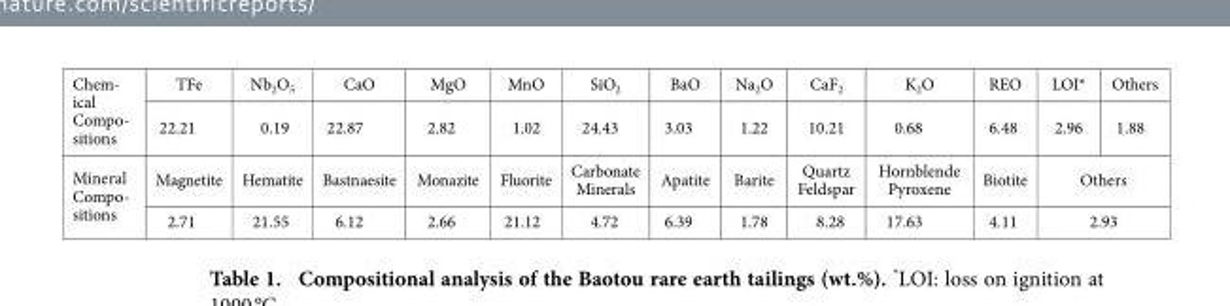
<table><tbody><tr><td rowspan="2">Chem- ical Compo- sitions</td><td>TFe</td><td>Nb<sub>2</sub>O<sub>5</sub></td><td>CaO</td><td>MgO</td><td>MnO</td><td>SiO<sub>2</sub></td><td>BaO</td><td>Na<sub>2</sub>O</td><td>CaF<sub>2</sub></td><td>K<sub>2</sub>O</td><td>REO</td><td>LOI*</td><td>Others</td></tr><tr><td>22.21</td><td>0.19</td><td>22.87</td><td>2.82</td><td>1.02</td><td>24.43</td><td>3.03</td><td>1.22</td><td>10.21</td><td>0.68</td><td>6.48</td><td>2.96</td><td>1.88</td></tr><tr><td rowspan="2">Mineral Compo- sitions</td><td>Magnetite</td><td>Hematite</td><td>Bastnaesite</td><td>Monazite</td><td>Fluorite</td><td>Carbonate Minerals</td><td>Apatite</td><td>Barite</td><td>Quartz Feldspar</td><td>Hornblende Pyroxene</td><td>Biotite</td><td colspan="2">Others</td></tr><tr><td>2.71</td><td>21.55</td><td>6.12</td><td>2.66</td><td>21.12</td><td>4.72</td><td>6.39</td><td>1.78</td><td>8.28</td><td>17.63</td><td>4.11</td><td colspan="2">2.93</td></tr></tbody></table>